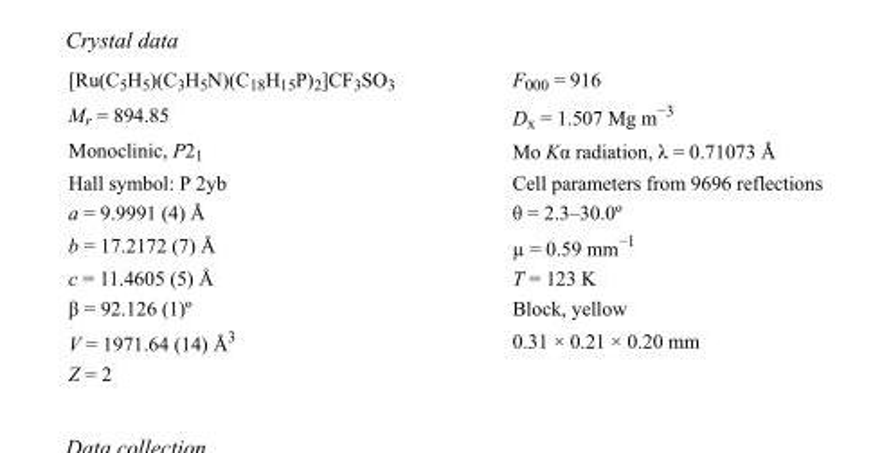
<table><tbody><tr><td>[Ru(C<sub>5</sub>H<sub>5</sub>)(C<sub>3</sub>H<sub>5</sub>N)(C<sub>18</sub>H<sub>15</sub>P)<sub>2</sub>]CF<sub>3</sub>SO<sub>3</sub></td><td>F000 = 916</td></tr><tr><td>M<sub>r</sub> = 894.85</td><td>D<sub>x</sub> = 1.507 Mg m<sup>−3</sup></td></tr><tr><td>Monoclinic, P2<sub>1</sub></td><td>Mo Kα radiation, λ = 0.71073 Å</td></tr><tr><td>Hall symbol: P 2yb</td><td>Cell parameters from 9696 reflections</td></tr><tr><td>a = 9.9991 (4) Å</td><td>θ = 2.3–30.0º</td></tr><tr><td>b = 17.2172 (7) Å</td><td>µ = 0.59 mm<sup>−1</sup></td></tr><tr><td>c = 11.4605 (5) Å</td><td>T = 123 K</td></tr><tr><td>β = 92.126 (1)º</td><td>Block, yellow</td></tr><tr><td>V = 1971.64 (14) Å<sup>3</sup></td><td>0.31 × 0.21 × 0.20 mm</td></tr><tr><td>Z = 2</td><td></td></tr></tbody></table>